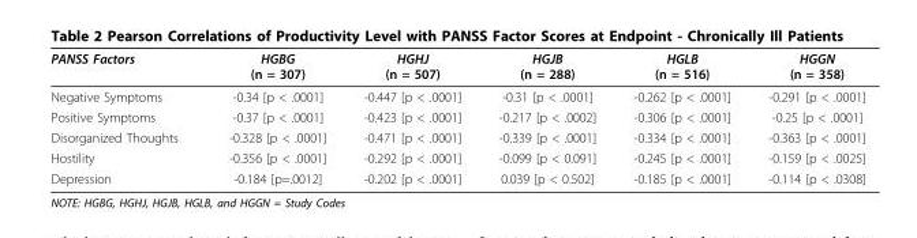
<table><thead><tr><td>PANSS Factors</td><td>HGBG (n = 307)</td><td>HGHJ (n = 507)</td><td>HGJB (n = 288)</td><td>HGLB (n = 516)</td><td>HGGN (n = 358)</td></tr></thead><tbody><tr><td>Negative Symptoms</td><td>-0.34 [p &lt; .0001]</td><td>-0.447 [p &lt; .0001]</td><td>-0.31 [p &lt; .0001]</td><td>-0.262 [p &lt; .0001]</td><td>-0.291 [p &lt; .0001]</td></tr><tr><td>Positive Symptoms</td><td>-0.37 [p &lt; .0001]</td><td>-0.423 [p &lt; .0001]</td><td>-0.217 [p &lt; .0002]</td><td>-0.306 [p &lt; .0001]</td><td>-0.25 [p &lt; .0001]</td></tr><tr><td>Disorganized Thoughts</td><td>-0.328 [p &lt; .0001]</td><td>-0.471 [p &lt; .0001]</td><td>-0.339 [p &lt; .0001]</td><td>-0.334 [p &lt; .0001]</td><td>-0.363 [p &lt; .0001]</td></tr><tr><td>Hostility</td><td>-0.356 [p &lt; .0001]</td><td>-0.292 [p &lt; .0001]</td><td>-0.099 [p &lt; 0.091]</td><td>-0.245 [p &lt; .0001]</td><td>-0.159 [p &lt; .0025]</td></tr><tr><td>Depression</td><td>-0.184 [p=.0012]</td><td>-0.202 [p &lt; .0001]</td><td>0.039 [p &lt; 0.502]</td><td>-0.185 [p &lt; .0001]</td><td>-0.114 [p &lt; .0308]</td></tr></tbody></table>